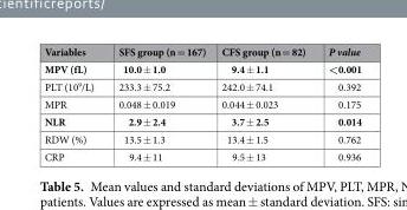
<table><thead><tr><td>Variables</td><td>SFS group (n = 167)</td><td>CFS group (n = 82)</td><td>P value</td></tr></thead><tbody><tr><td>MPV (fL)</td><td>10.0 ± 1.0</td><td>9.4 ± 1.1</td><td>&lt;0.001</td></tr><tr><td>PLT (10<sup>9</sup>/L)</td><td>233.3 ± 75.2</td><td>242.0 ± 74.1</td><td>0.392</td></tr><tr><td>MPR</td><td>0.048 ± 0.019</td><td>0.044 ± 0.023</td><td>0.175</td></tr><tr><td>NLR</td><td>2.9 ± 2.4</td><td>3.7 ± 2.5</td><td>0.014</td></tr><tr><td>RDW (%)</td><td>13.5 ± 1.3</td><td>13.4 ± 1.5</td><td>0.762</td></tr><tr><td>CRP</td><td>9.4 ± 11</td><td>9.5 ± 13</td><td>0.936</td></tr></tbody></table>